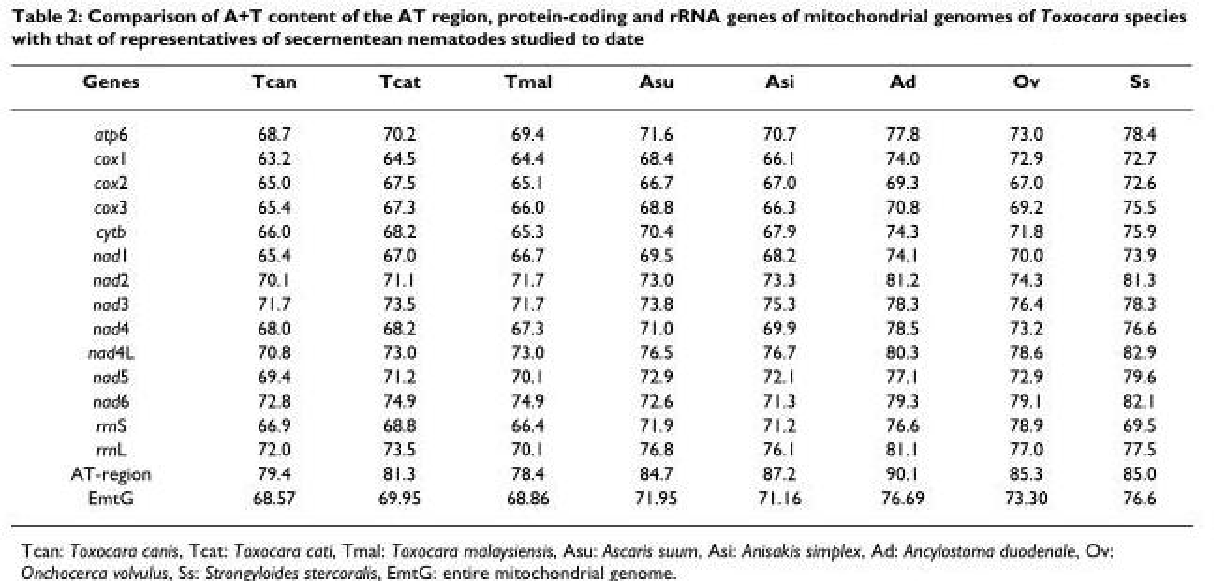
<table><thead><tr><td>Genes</td><td>Tcan</td><td>Tcat</td><td>Tmal</td><td>Asu</td><td>Asi</td><td>Ad</td><td>Ov</td><td>Ss</td></tr></thead><tbody><tr><td>atp6</td><td>68.7</td><td>70.2</td><td>69.4</td><td>71.6</td><td>70.7</td><td>77.8</td><td>73.0</td><td>78.4</td></tr><tr><td>cox1</td><td>63.2</td><td>64.5</td><td>64.4</td><td>68.4</td><td>66.1</td><td>74.0</td><td>72.9</td><td>72.7</td></tr><tr><td>cox2</td><td>65.0</td><td>67.5</td><td>65.1</td><td>66.7</td><td>67.0</td><td>69.3</td><td>67.0</td><td>72.6</td></tr><tr><td>cox3</td><td>65.4</td><td>67.3</td><td>66.0</td><td>68.8</td><td>66.3</td><td>70.8</td><td>69.2</td><td>75.5</td></tr><tr><td>cytb</td><td>66.0</td><td>68.2</td><td>65.3</td><td>70.4</td><td>67.9</td><td>74.3</td><td>71.8</td><td>75.9</td></tr><tr><td>nad1</td><td>65.4</td><td>67.0</td><td>66.7</td><td>69.5</td><td>68.2</td><td>74.1</td><td>70.0</td><td>73.9</td></tr><tr><td>nad2</td><td>70.1</td><td>71.1</td><td>71.7</td><td>73.0</td><td>73.3</td><td>81.2</td><td>74.3</td><td>81.3</td></tr><tr><td>nad3</td><td>71.7</td><td>73.5</td><td>71.7</td><td>73.8</td><td>75.3</td><td>78.3</td><td>76.4</td><td>78.3</td></tr><tr><td>nad4</td><td>68.0</td><td>68.2</td><td>67.3</td><td>71.0</td><td>69.9</td><td>78.5</td><td>73.2</td><td>76.6</td></tr><tr><td>nad4L</td><td>70.8</td><td>73.0</td><td>73.0</td><td>76.5</td><td>76.7</td><td>80.3</td><td>78.6</td><td>82.9</td></tr><tr><td>nad5</td><td>69.4</td><td>71.2</td><td>70.1</td><td>72.9</td><td>72.1</td><td>77.1</td><td>72.9</td><td>79.6</td></tr><tr><td>nad6</td><td>72.8</td><td>74.9</td><td>74.9</td><td>72.6</td><td>71.3</td><td>79.3</td><td>79.1</td><td>82.1</td></tr><tr><td>rrnS</td><td>66.9</td><td>68.8</td><td>66.4</td><td>71.9</td><td>71.2</td><td>76.6</td><td>78.9</td><td>69.5</td></tr><tr><td>rrnL</td><td>72.0</td><td>73.5</td><td>70.1</td><td>76.8</td><td>76.1</td><td>81.1</td><td>77.0</td><td>77.5</td></tr><tr><td>AT-region</td><td>79.4</td><td>81.3</td><td>78.4</td><td>84.7</td><td>87.2</td><td>90.1</td><td>85.3</td><td>85.0</td></tr><tr><td>EmtG</td><td>68.57</td><td>69.95</td><td>68.86</td><td>71.95</td><td>71.16</td><td>76.69</td><td>73.30</td><td>76.6</td></tr></tbody></table>